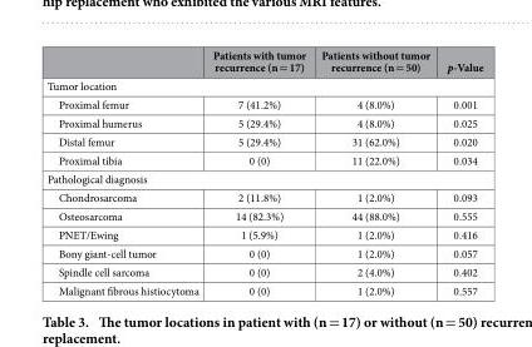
<table><thead><tr><td></td><td>Patients with tumor recurrence (n = 17)</td><td>Patients without tumor recurrence (n = 50)</td><td>p-Value</td></tr></thead><tbody><tr><td colspan="4">Tumor location</td></tr><tr><td>Proximal femur</td><td>7 (41.2%)</td><td>4 (8.0%)</td><td>0.001</td></tr><tr><td>Proximal humerus</td><td>5 (29.4%)</td><td>4 (8.0%)</td><td>0.025</td></tr><tr><td>Distal femur</td><td>5 (29.4%)</td><td>31 (62.0%)</td><td>0.020</td></tr><tr><td>Proximal tibia</td><td>0 (0)</td><td>11 (22.0%)</td><td>0.034</td></tr><tr><td colspan="4">Pathological diagnosis</td></tr><tr><td>Chondrosarcoma</td><td>2 (11.8%)</td><td>1 (2.0%)</td><td>0.093</td></tr><tr><td>Osteosarcoma</td><td>14 (82.3%)</td><td>44 (88.0%)</td><td>0.555</td></tr><tr><td>PNET/Ewing</td><td>1 (5.9%)</td><td>1 (2.0%)</td><td>0.416</td></tr><tr><td>Bony giant-cell tumor</td><td>0 (0)</td><td>1 (2.0%)</td><td>0.057</td></tr><tr><td>Spindle cell sarcoma</td><td>0 (0)</td><td>2 (4.0%)</td><td>0.402</td></tr><tr><td>Malignant fibrous histiocytoma</td><td>0 (0)</td><td>1 (2.0%)</td><td>0.557</td></tr></tbody></table>